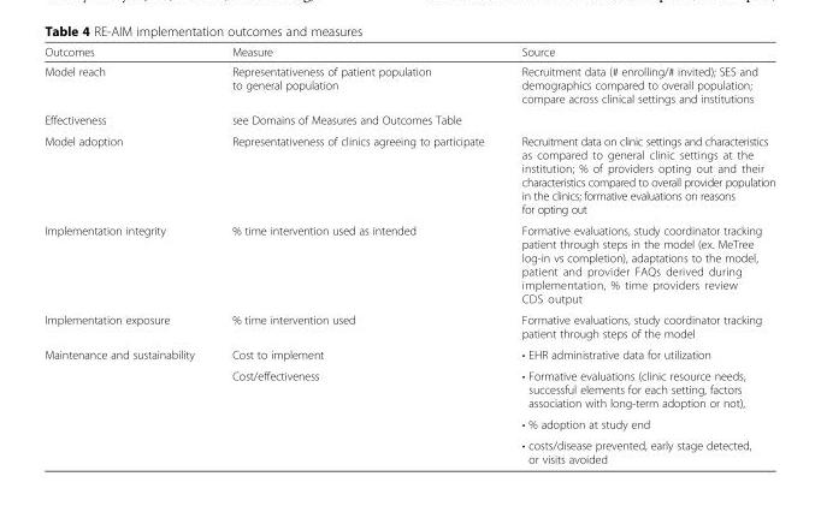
<table><thead><tr><td>Outcomes</td><td>Measure</td><td>Source</td></tr></thead><tbody><tr><td>Model reach</td><td>Representativeness of patient population to general population</td><td>Recruitment data (# enrolling/# invited); SES and demographics compared to overall population; compare across clinical settings and institutions</td></tr><tr><td>Effectiveness</td><td colspan="2">see Domains of Measures and Outcomes Table</td></tr><tr><td>Model adoption</td><td>Representativeness of clinics agreeing to participate</td><td>Recruitment data on clinic settings and characteristics as compared to general clinic settings at the institution; % of providers opting out and their characteristics compared to overall provider population in the clinics; formative evaluations on reasons for opting out</td></tr><tr><td>Implementation integrity</td><td>% time intervention used as intended</td><td>Formative evaluations, study coordinator tracking patient through steps in the model (ex. MeTree log-in vs completion), adaptations to the model, patient and provider FAQs derived during implementation, % time providers review CDS output</td></tr><tr><td>Implementation exposure</td><td>% time intervention used</td><td>Formative evaluations, study coordinator tracking patient through steps of the model</td></tr><tr><td rowspan="4">Maintenance and sustainability</td><td>Cost to implement</td><td>• EHR administrative data for utilization</td></tr><tr><td rowspan="3">Cost/effectiveness</td><td>• Formative evaluations (clinic resource needs, successful elements for each setting, factors association with long-term adoption or not),</td></tr><tr><td>• % adoption at study end</td></tr><tr><td>• costs/disease prevented, early stage detected, or visits avoided</td></tr></tbody></table>